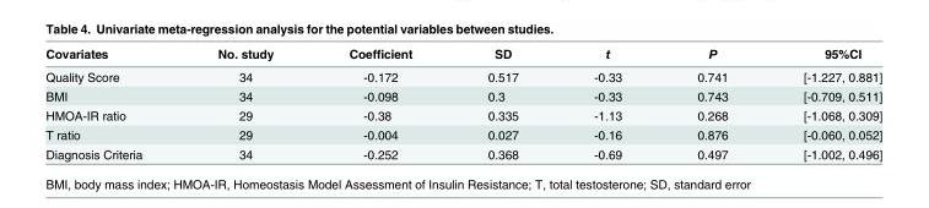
<table><thead><tr><td>Covariates</td><td>No. study</td><td>Coefficient</td><td>SD</td><td>t</td><td>P</td><td>95%CI</td></tr></thead><tbody><tr><td>Quality Score</td><td>34</td><td>-0.172</td><td>0.517</td><td>-0.33</td><td>0.741</td><td>[-1.227, 0.881]</td></tr><tr><td>BMI</td><td>34</td><td>-0.098</td><td>0.3</td><td>-0.33</td><td>0.743</td><td>[-0.709, 0.511]</td></tr><tr><td>HMOA-IR ratio</td><td>29</td><td>-0.38</td><td>0.335</td><td>-1.13</td><td>0.268</td><td>[-1.068, 0.309]</td></tr><tr><td>T ratio</td><td>29</td><td>-0.004</td><td>0.027</td><td>-0.16</td><td>0.876</td><td>[-0.060, 0.052]</td></tr><tr><td>Diagnosis Criteria</td><td>34</td><td>-0.252</td><td>0.368</td><td>-0.69</td><td>0.497</td><td>[-1.002, 0.496]</td></tr></tbody></table>